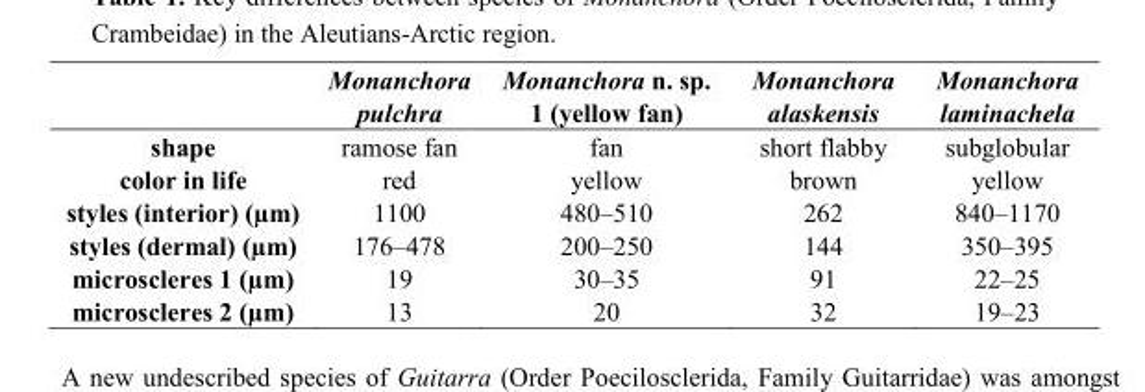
<table><thead><tr><td></td><td>Monanchora pulchra</td><td>Monanchora n. sp. 1 (yellow fan)</td><td>Monanchora alaskensis</td><td>Monanchora laminachela</td></tr></thead><tbody><tr><td>shape</td><td>ramose fan</td><td>fan</td><td>short flabby</td><td>subglobular</td></tr><tr><td>color in life</td><td>red</td><td>yellow</td><td>brown</td><td>yellow</td></tr><tr><td>styles (interior) (µm)</td><td>1100</td><td>480–510</td><td>262</td><td>840–1170</td></tr><tr><td>styles (dermal) (µm)</td><td>176–478</td><td>200–250</td><td>144</td><td>350–395</td></tr><tr><td>microscleres 1 (µm)</td><td>19</td><td>30–35</td><td>91</td><td>22–25</td></tr><tr><td>microscleres 2 (µm)</td><td>13</td><td>20</td><td>32</td><td>19–23</td></tr></tbody></table>